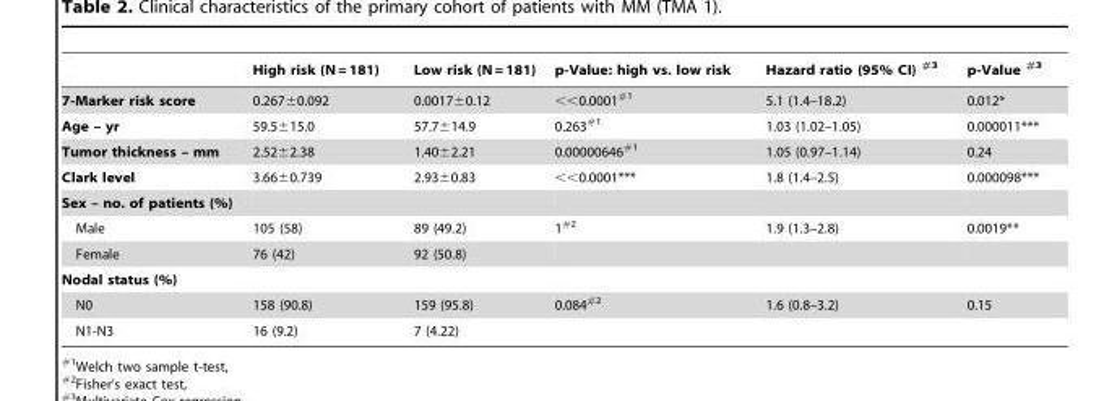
<table><thead><tr><td></td><td>High risk (N = 181)</td><td>Low risk (N = 181)</td><td>p-Value: high vs. low risk</td><td>Hazard ratio (95% CI) #3</td><td>p-Value #3</td></tr></thead><tbody><tr><td>7-Marker risk score</td><td>0.267±0.092</td><td>0.0017±0.12</td><td>&lt;&lt;0.0001#1</td><td>5.1 (1.4–18.2)</td><td>0.012*</td></tr><tr><td>Age – yr</td><td>59.5±15.0</td><td>57.7±14.9</td><td>0.263#1</td><td>1.03 (1.02–1.05)</td><td>0.000011***</td></tr><tr><td>Tumor thickness – mm</td><td>2.52±2.38</td><td>1.40±2.21</td><td>0.00000646#1</td><td>1.05 (0.97–1.14)</td><td>0.24</td></tr><tr><td>Clark level</td><td>3.66±0.739</td><td>2.93±0.83</td><td>&lt;&lt;0.0001***</td><td>1.8 (1.4–2.5)</td><td>0.000098***</td></tr><tr><td colspan="6">Sex – no. of patients (%)</td></tr><tr><td>Male</td><td>105 (58)</td><td>89 (49.2)</td><td>1#2</td><td>1.9 (1.3–2.8)</td><td>0.0019**</td></tr><tr><td>Female</td><td>76 (42)</td><td>92 (50.8)</td><td></td><td></td><td></td></tr><tr><td colspan="6">Nodal status (%)</td></tr><tr><td>N0</td><td>158 (90.8)</td><td>159 (95.8)</td><td>0.084#2</td><td>1.6 (0.8–3.2)</td><td>0.15</td></tr><tr><td>N1-N3</td><td>16 (9.2)</td><td>7 (4.22)</td><td></td><td></td><td></td></tr></tbody></table>